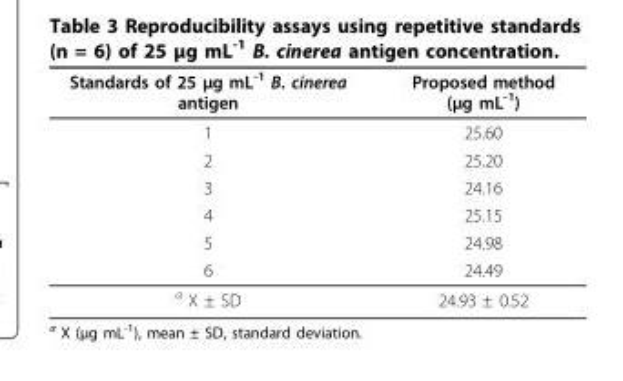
<table><thead><tr><td>Standards of 25 μg mL<sup>-1</sup> B. cinerea antigen</td><td>Proposed method (μg mL<sup>-1</sup>)</td></tr></thead><tbody><tr><td>1</td><td>25.60</td></tr><tr><td>2</td><td>25.20</td></tr><tr><td>3</td><td>24.16</td></tr><tr><td>4</td><td>25.15</td></tr><tr><td>5</td><td>24.98</td></tr><tr><td>6</td><td>24.49</td></tr><tr><td><sup>a</sup> X ± SD</td><td>24.93 ± 0.52</td></tr></tbody></table>